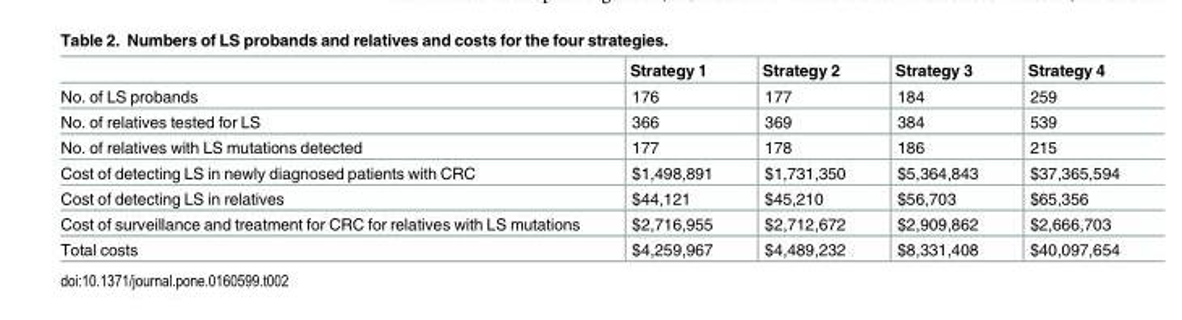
<table><thead><tr><td></td><td>Strategy 1</td><td>Strategy 2</td><td>Strategy 3</td><td>Strategy 4</td></tr></thead><tbody><tr><td>No. of LS probands</td><td>176</td><td>177</td><td>184</td><td>259</td></tr><tr><td>No. of relatives tested for LS</td><td>366</td><td>369</td><td>384</td><td>539</td></tr><tr><td>No. of relatives with LS mutations detected</td><td>177</td><td>178</td><td>186</td><td>215</td></tr><tr><td>Cost of detecting LS in newly diagnosed patients with CRC</td><td>$1,498,891</td><td>$1,731,350</td><td>$5,364,843</td><td>$37,365,594</td></tr><tr><td>Cost of detecting LS in relatives</td><td>$44,121</td><td>$45,210</td><td>$56,703</td><td>$65,356</td></tr><tr><td>Cost of surveillance and treatment for CRC for relatives with LS mutations</td><td>$2,716,955</td><td>$2,712,672</td><td>$2,909,862</td><td>$2,666,703</td></tr><tr><td>Total costs</td><td>$4,259,967</td><td>$4,489,232</td><td>$8,331,408</td><td>$40,097,654</td></tr></tbody></table>